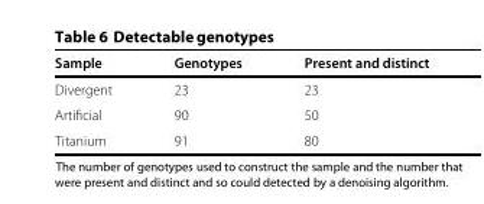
<table><thead><tr><td>Sample</td><td>Genotypes</td><td>Present and distinct</td></tr></thead><tbody><tr><td>Divergent</td><td>23</td><td>23</td></tr><tr><td>Artificial</td><td>90</td><td>50</td></tr><tr><td>Titanium</td><td>91</td><td>80</td></tr></tbody></table>